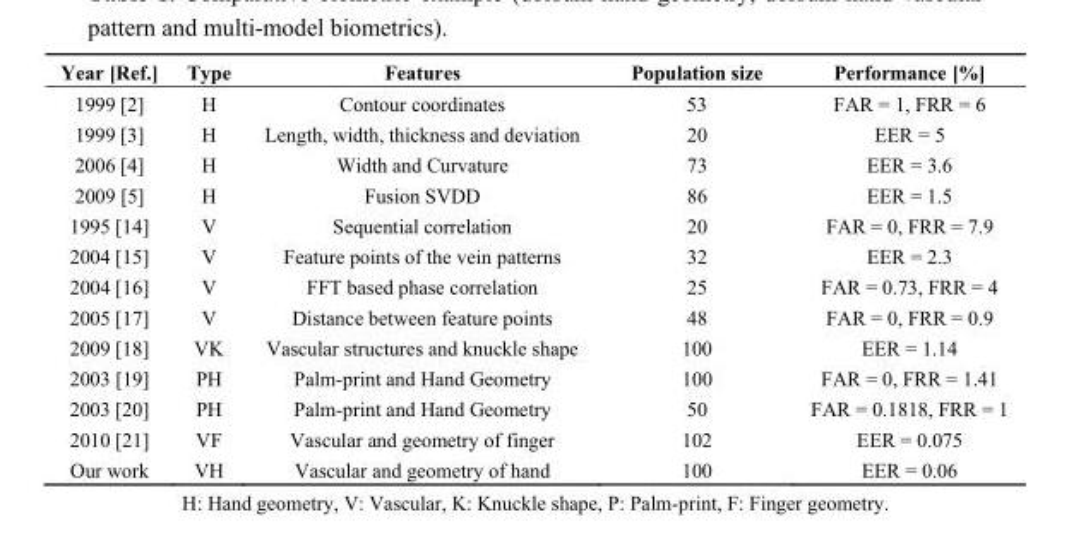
<table><thead><tr><td>Year [Ref.]</td><td>Type</td><td>Features</td><td>Population size</td><td>Performance [%]</td></tr></thead><tbody><tr><td>1999 [2]</td><td>H</td><td>Contour coordinates</td><td>53</td><td>FAR = 1, FRR = 6</td></tr><tr><td>1999 [3]</td><td>H</td><td>Length, width, thickness and deviation</td><td>20</td><td>EER = 5</td></tr><tr><td>2006 [4]</td><td>H</td><td>Width and Curvature</td><td>73</td><td>EER = 3.6</td></tr><tr><td>2009 [5]</td><td>H</td><td>Fusion SVDD</td><td>86</td><td>EER = 1.5</td></tr><tr><td>1995 [14]</td><td>V</td><td>Sequential correlation</td><td>20</td><td>FAR = 0, FRR = 7.9</td></tr><tr><td>2004 [15]</td><td>V</td><td>Feature points of the vein patterns</td><td>32</td><td>EER = 2.3</td></tr><tr><td>2004 [16]</td><td>V</td><td>FFT based phase correlation</td><td>25</td><td>FAR = 0.73, FRR = 4</td></tr><tr><td>2005 [17]</td><td>V</td><td>Distance between feature points</td><td>48</td><td>FAR = 0, FRR = 0.9</td></tr><tr><td>2009 [18]</td><td>VK</td><td>Vascular structures and knuckle shape</td><td>100</td><td>EER = 1.14</td></tr><tr><td>2003 [19]</td><td>PH</td><td>Palm-print and Hand Geometry</td><td>100</td><td>FAR = 0, FRR = 1.41</td></tr><tr><td>2003 [20]</td><td>PH</td><td>Palm-print and Hand Geometry</td><td>50</td><td>FAR = 0.1818, FRR = 1</td></tr><tr><td>2010 [21]</td><td>VF</td><td>Vascular and geometry of finger</td><td>102</td><td>EER = 0.075</td></tr><tr><td>Our work</td><td>VH</td><td>Vascular and geometry of hand</td><td>100</td><td>EER = 0.06</td></tr></tbody></table>